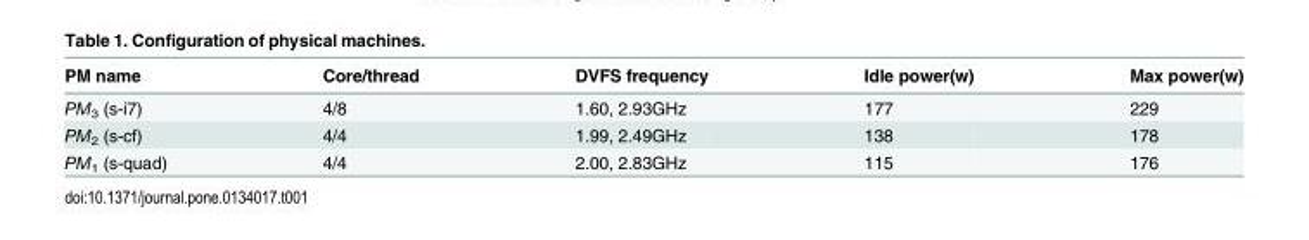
<table><thead><tr><td>PM name</td><td>Core/thread</td><td>DVFS frequency</td><td>Idle power(w)</td><td>Max power(w)</td></tr></thead><tbody><tr><td>PM<sub>3</sub> (s-i7)</td><td>4/8</td><td>1.60, 2.93GHz</td><td>177</td><td>229</td></tr><tr><td>PM<sub>2</sub> (s-cf)</td><td>4/4</td><td>1.99, 2.49GHz</td><td>138</td><td>178</td></tr><tr><td>PM<sub>1</sub> (s-quad)</td><td>4/4</td><td>2.00, 2.83GHz</td><td>115</td><td>176</td></tr></tbody></table>